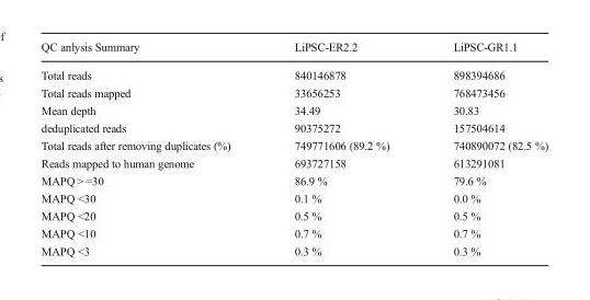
<table><thead><tr><td>QC anlysis Summary</td><td>LiPSC-ER2.2</td><td>LiPSC-GR1.1</td></tr></thead><tbody><tr><td>Total reads</td><td>840146878</td><td>898394686</td></tr><tr><td>Total reads mapped</td><td>33656253</td><td>768473456</td></tr><tr><td>Mean depth</td><td>34.49</td><td>30.83</td></tr><tr><td>deduplicated reads</td><td>90375272</td><td>157504614</td></tr><tr><td>Total reads after removing duplicates (%)</td><td>749771606 (89.2 %)</td><td>740890072 (82.5 %)</td></tr><tr><td>Reads mapped to human genome</td><td>693727158</td><td>613291081</td></tr><tr><td>MAPQ &gt; =30</td><td>86.9 %</td><td>79.6 %</td></tr><tr><td>MAPQ &lt;30</td><td>0.1 %</td><td>0.0 %</td></tr><tr><td>MAPQ &lt;20</td><td>0.5 %</td><td>0.5 %</td></tr><tr><td>MAPQ &lt;10</td><td>0.7 %</td><td>0.7 %</td></tr><tr><td>MAPQ &lt;3</td><td>0.3 %</td><td>0.3 %</td></tr></tbody></table>